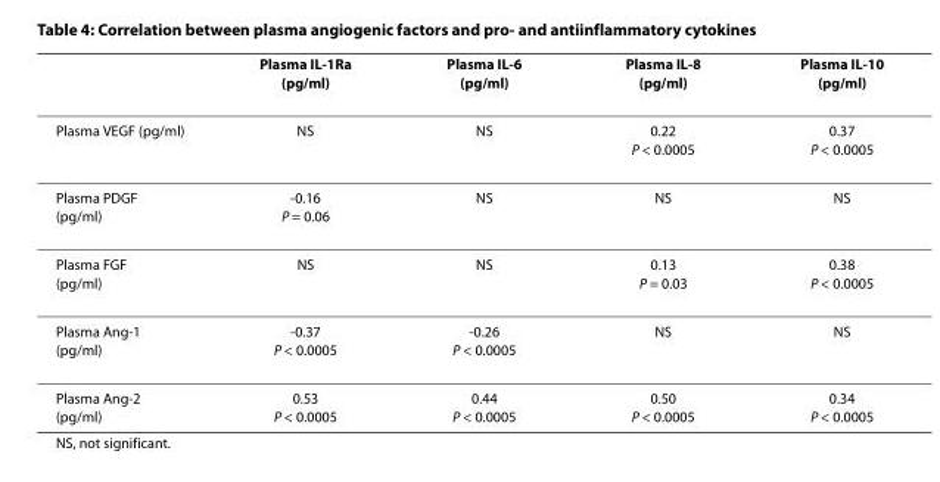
<table><thead><tr><td></td><td>Plasma IL-1Ra (pg/ml)</td><td>Plasma IL-6 (pg/ml)</td><td>Plasma IL-8 (pg/ml)</td><td>Plasma IL-10 (pg/ml)</td></tr></thead><tbody><tr><td>Plasma VEGF (pg/ml)</td><td>NS</td><td>NS</td><td>0.22 P &lt; 0.0005</td><td>0.37 P &lt; 0.0005</td></tr><tr><td>Plasma PDGF (pg/ml)</td><td>-0.16 P = 0.06</td><td>NS</td><td>NS</td><td>NS</td></tr><tr><td>Plasma FGF (pg/ml)</td><td>NS</td><td>NS</td><td>0.13 P = 0.03</td><td>0.38 P &lt; 0.0005</td></tr><tr><td>Plasma Ang-1 (pg/ml)</td><td>-0.37 P &lt; 0.0005</td><td>-0.26 P &lt; 0.0005</td><td>NS</td><td>NS</td></tr><tr><td>Plasma Ang-2 (pg/ml)</td><td>0.53 P &lt; 0.0005</td><td>0.44 P &lt; 0.0005</td><td>0.50 P &lt; 0.0005</td><td>0.34 P &lt; 0.0005</td></tr></tbody></table>